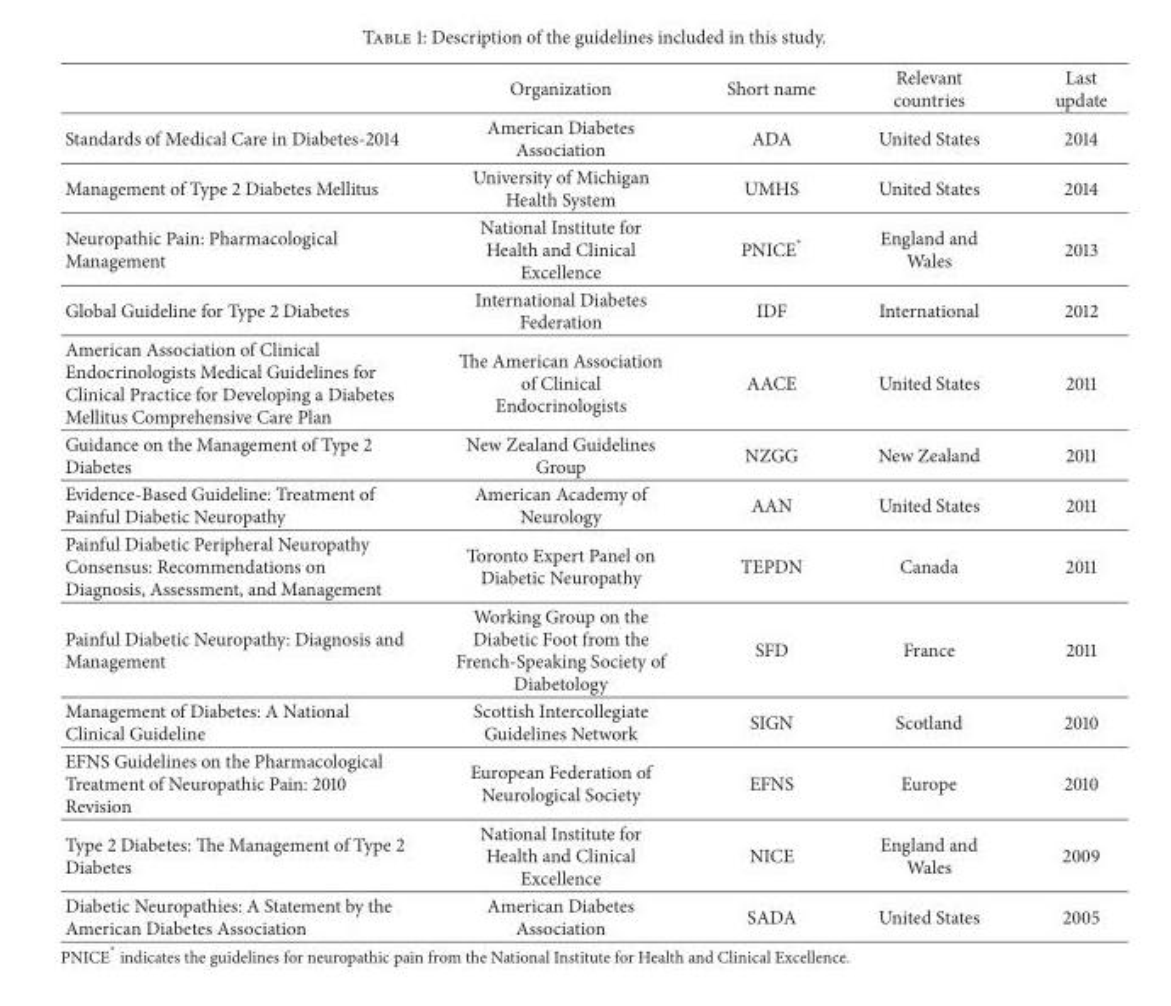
<table><thead><tr><td></td><td>Organization</td><td>Short name</td><td>Relevant countries</td><td>Last update</td></tr></thead><tbody><tr><td>Standards of Medical Care in Diabetes-2014</td><td>American Diabetes Association</td><td>ADA</td><td>United States</td><td>2014</td></tr><tr><td>Management of Type 2 Diabetes Mellitus</td><td>University of Michigan Health System</td><td>UMHS</td><td>United States</td><td>2014</td></tr><tr><td>Neuropathic Pain: Pharmacological Management</td><td>National Institute for Health and Clinical Excellence</td><td>PNICE*</td><td>England and Wales</td><td>2013</td></tr><tr><td>Global Guideline for Type 2 Diabetes</td><td>International Diabetes Federation</td><td>IDF</td><td>International</td><td>2012</td></tr><tr><td>American Association of Clinical Endocrinologists Medical Guidelines for Clinical Practice for Developing a Diabetes Mellitus Comprehensive Care Plan</td><td>The American Association of Clinical Endocrinologists</td><td>AACE</td><td>United States</td><td>2011</td></tr><tr><td>Guidance on the Management of Type 2 Diabetes</td><td>New Zealand Guidelines Group</td><td>NZGG</td><td>New Zealand</td><td>2011</td></tr><tr><td>Evidence-Based Guideline: Treatment of Painful Diabetic Neuropathy</td><td>American Academy of Neurology</td><td>AAN</td><td>United States</td><td>2011</td></tr><tr><td>Painful Diabetic Peripheral Neuropathy Consensus: Recommendations on Diagnosis, Assessment, and Management</td><td>Toronto Expert Panel on Diabetic Neuropathy</td><td>TEPDN</td><td>Canada</td><td>2011</td></tr><tr><td>Painful Diabetic Neuropathy: Diagnosis and Management</td><td>Working Group on the Diabetic Foot from the French-Speaking Society of Diabetology</td><td>SFD</td><td>France</td><td>2011</td></tr><tr><td>Management of Diabetes: A National Clinical Guideline</td><td>Scottish Intercollegiate Guidelines Network</td><td>SIGN</td><td>Scotland</td><td>2010</td></tr><tr><td>EFNS Guidelines on the Pharmacological Treatment of Neuropathic Pain: 2010 Revision</td><td>European Federation of Neurological Society</td><td>EFNS</td><td>Europe</td><td>2010</td></tr><tr><td>Type 2 Diabetes: The Management of Type 2 Diabetes</td><td>National Institute for Health and Clinical Excellence</td><td>NICE</td><td>England and Wales</td><td>2009</td></tr><tr><td>Diabetic Neuropathies: A Statement by the American Diabetes Association</td><td>American Diabetes Association</td><td>SADA</td><td>United States</td><td>2005</td></tr></tbody></table>